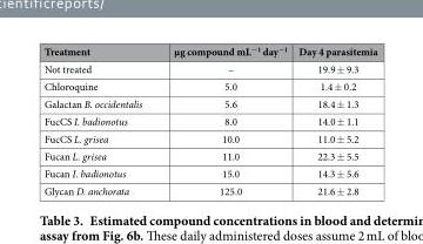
<table><thead><tr><td>Treatment</td><td>μg compound mL<sup>−1</sup> day<sup>−1</sup></td><td>Day 4 parasitemia</td></tr></thead><tbody><tr><td>Not treated</td><td>–</td><td>19.9 ± 9.3</td></tr><tr><td>Chloroquine</td><td>5.0</td><td>1.4 ± 0.2</td></tr><tr><td>Galactan B. occidentalis</td><td>5.6</td><td>18.4 ± 1.3</td></tr><tr><td>FucCS I. badionotus</td><td>8.0</td><td>14.0 ± 1.1</td></tr><tr><td>FucCS L. grisea</td><td>10.0</td><td>11.0 ± 5.2</td></tr><tr><td>Fucan L. grisea</td><td>11.0</td><td>22.3 ± 5.5</td></tr><tr><td>Fucan I. badionotus</td><td>15.0</td><td>14.3 ± 5.6</td></tr><tr><td>Glycan D. anchorata</td><td>125.0</td><td>21.6 ± 2.8</td></tr></tbody></table>